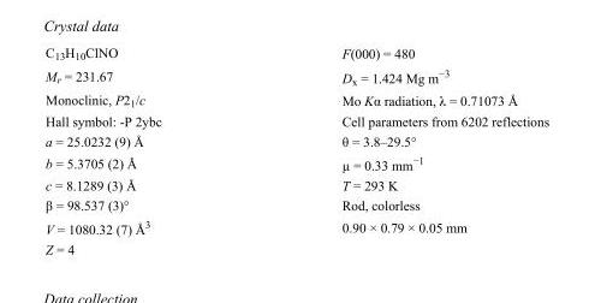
<table><tbody><tr><td>C<sub>13</sub>H<sub>10</sub>ClNO</td><td>F(000) = 480</td></tr><tr><td>M<sub>r</sub> = 231.67</td><td>D<sub>x</sub> = 1.424 Mg m<sup>−3</sup></td></tr><tr><td>Monoclinic, P2<sub>1</sub>/c</td><td>Mo Kα radiation, λ = 0.71073 Å</td></tr><tr><td>Hall symbol: -P 2ybc</td><td>Cell parameters from 6202 reflections</td></tr><tr><td>a = 25.0232 (9) Å</td><td>θ = 3.8–29.5°</td></tr><tr><td>b = 5.3705 (2) Å</td><td>µ = 0.33 mm<sup>−1</sup></td></tr><tr><td>c = 8.1289 (3) Å</td><td>T = 293 K</td></tr><tr><td>β = 98.537 (3)°</td><td>Rod, colorless</td></tr><tr><td>V = 1080.32 (7) Å<sup>3</sup></td><td>0.90 × 0.79 × 0.05 mm</td></tr><tr><td>Z = 4</td><td></td></tr></tbody></table>